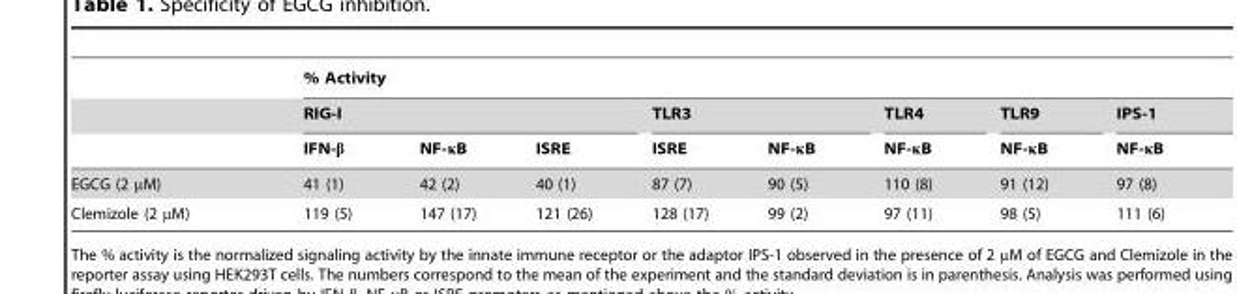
<table><thead><tr><td rowspan="3"></td><td colspan="8">% Activity</td></tr><tr><td colspan="3">RIG-I</td><td colspan="2">TLR3</td><td rowspan="2">TLR4 NF-κB</td><td rowspan="2">TLR9 NF-κB</td><td rowspan="2">IPS-1 NF-κB</td></tr><tr><td>IFN-β</td><td>NF-κB</td><td>ISRE</td><td>ISRE</td><td>NF-κB</td></tr></thead><tbody><tr><td>EGCG (2 µM)</td><td>41 (1)</td><td>42 (2)</td><td>40 (1)</td><td>87 (7)</td><td>90 (5)</td><td>110 (8)</td><td>91 (12)</td><td>97 (8)</td></tr><tr><td>Clemizole (2 µM)</td><td>119 (5)</td><td>147 (17)</td><td>121 (26)</td><td>128 (17)</td><td>99 (2)</td><td>97 (11)</td><td>98 (5)</td><td>111 (6)</td></tr></tbody></table>